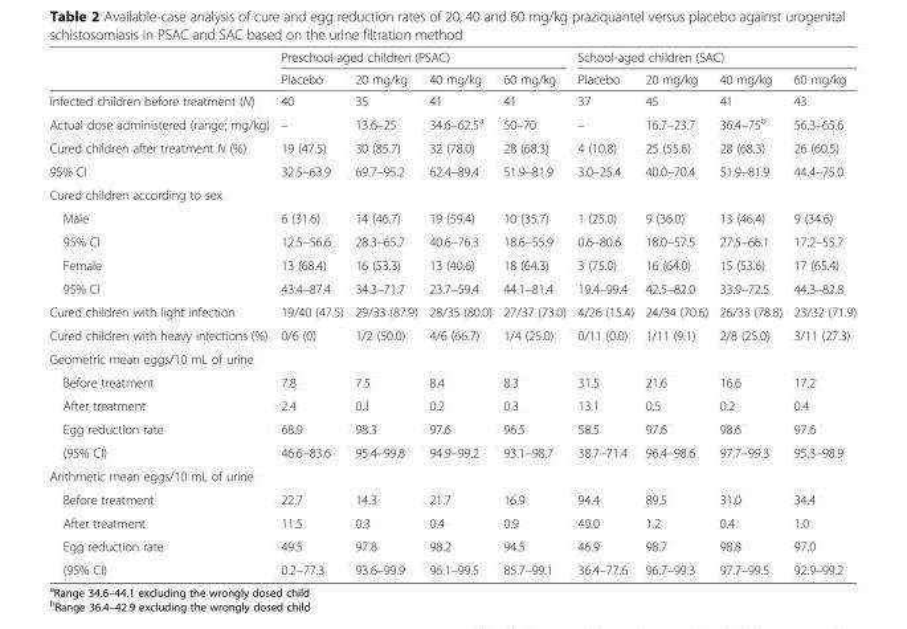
<table><thead><tr><td rowspan="2"></td><td colspan="4">Preschool-aged children (PSAC)</td><td colspan="4">School-aged children (SAC)</td></tr><tr><td>Placebo</td><td>20 mg/kg</td><td>40 mg/kg</td><td>60 mg/kg</td><td>Placebo</td><td>20 mg/kg</td><td>40 mg/kg</td><td>60 mg/kg</td></tr></thead><tbody><tr><td>Infected children before treatment (N)</td><td>40</td><td>35</td><td>41</td><td>41</td><td>37</td><td>45</td><td>41</td><td>43</td></tr><tr><td>Actual dose administered (range; mg/kg)</td><td>–</td><td>13.6–25</td><td>34.6–62.5<sup>a</sup></td><td>50–70</td><td>–</td><td>16.7–23.7</td><td>36.4–75<sup>b</sup></td><td>56.3–65.6</td></tr><tr><td>Cured children after treatment N (%)</td><td>19 (47.5)</td><td>30 (85.7)</td><td>32 (78.0)</td><td>28 (68.3)</td><td>4 (10.8)</td><td>25 (55.6)</td><td>28 (68.3)</td><td>26 (60.5)</td></tr><tr><td>95% CI</td><td>32.5–63.9</td><td>69.7–95.2</td><td>62.4–89.4</td><td>51.9–81.9</td><td>3.0–25.4</td><td>40.0–70.4</td><td>51.9–81.9</td><td>44.4–75.0</td></tr><tr><td colspan="9">Cured children according to sex</td></tr><tr><td>Male</td><td>6 (31.6)</td><td>14 (46.7)</td><td>19 (59.4)</td><td>10 (35.7)</td><td>1 (25.0)</td><td>9 (36.0)</td><td>13 (46.4)</td><td>9 (34.6)</td></tr><tr><td>95% CI</td><td>12.5–56.6</td><td>28.3–65.7</td><td>40.6–76.3</td><td>18.6–55.9</td><td>0.6–80.6</td><td>18.0–57.5</td><td>27.5–66.1</td><td>17.2–55.7</td></tr><tr><td>Female</td><td>13 (68.4)</td><td>16 (53.3)</td><td>13 (40.6)</td><td>18 (64.3)</td><td>3 (75.0)</td><td>16 (64.0)</td><td>15 (53.6)</td><td>17 (65.4)</td></tr><tr><td>95% CI</td><td>43.4–87.4</td><td>34.3–71.7</td><td>23.7–59.4</td><td>44.1–81.4</td><td>19.4–99.4</td><td>42.5–82.0</td><td>33.9–72.5</td><td>44.3–82.8</td></tr><tr><td>Cured children with light infection</td><td>19/40 (47.5)</td><td>29/33 (87.9)</td><td>28/35 (80.0)</td><td>27/37 (73.0)</td><td>4/26 (15.4)</td><td>24/34 (70.6)</td><td>26/33 (78.8)</td><td>23/32 (71.9)</td></tr><tr><td>Cured children with heavy infections (%)</td><td>0/6 (0)</td><td>1/2 (50.0)</td><td>4/6 (66.7)</td><td>1/4 (25.0)</td><td>0/11 (0.0)</td><td>1/11 (9.1)</td><td>2/8 (25.0)</td><td>3/11 (27.3)</td></tr><tr><td colspan="9">Geometric mean eggs/10 mL of urine</td></tr><tr><td>Before treatment</td><td>7.8</td><td>7.5</td><td>8.4</td><td>8.3</td><td>31.5</td><td>21.6</td><td>16.6</td><td>17.2</td></tr><tr><td>After treatment</td><td>2.4</td><td>0.1</td><td>0.2</td><td>0.3</td><td>13.1</td><td>0.5</td><td>0.2</td><td>0.4</td></tr><tr><td>Egg reduction rate</td><td>68.9</td><td>98.3</td><td>97.6</td><td>96.5</td><td>58.5</td><td>97.6</td><td>98.6</td><td>97.6</td></tr><tr><td>(95% CI)</td><td>46.6–83.6</td><td>95.4–99.8</td><td>94.9–99.2</td><td>93.1–98.7</td><td>38.7–71.4</td><td>96.4–98.6</td><td>97.7–99.3</td><td>95.3–98.9</td></tr><tr><td colspan="9">Arithmetic mean eggs/10 mL of urine</td></tr><tr><td>Before treatment</td><td>22.7</td><td>14.3</td><td>21.7</td><td>16.9</td><td>94.4</td><td>89.5</td><td>31.0</td><td>34.4</td></tr><tr><td>After treatment</td><td>11.5</td><td>0.3</td><td>0.4</td><td>0.9</td><td>49.0</td><td>1.2</td><td>0.4</td><td>1.0</td></tr><tr><td>Egg reduction rate</td><td>49.5</td><td>97.8</td><td>98.2</td><td>94.5</td><td>46.9</td><td>98.7</td><td>98.8</td><td>97.0</td></tr><tr><td>(95% CI)</td><td>0.2–77.3</td><td>93.6–99.9</td><td>96.1–99.5</td><td>85.7–99.1</td><td>36.4–77.6</td><td>96.7–99.3</td><td>97.7–99.5</td><td>92.9–99.2</td></tr></tbody></table>